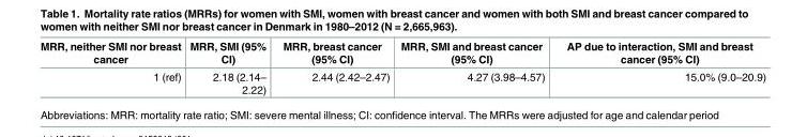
<table><thead><tr><td>MRR, neither SMI nor breast cancer</td><td>MRR, SMI (95% CI)</td><td>MRR, breast cancer (95% CI)</td><td>MRR, SMI and breast cancer (95% CI)</td><td>AP due to interaction, SMI and breast cancer (95% CI)</td></tr></thead><tbody><tr><td>1 (ref)</td><td>2.18 (2.14– 2.22)</td><td>2.44 (2.42–2.47)</td><td>4.27 (3.98–4.57)</td><td>15.0% (9.0–20.9)</td></tr></tbody></table>